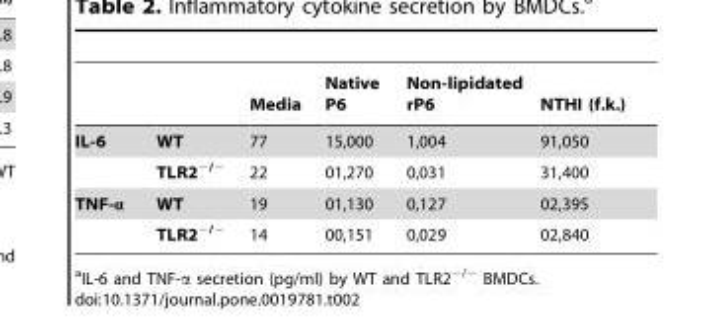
<table><thead><tr><td></td><td></td><td>Media</td><td>Native P6</td><td>Non-lipidated rP6</td><td>NTHI (f.k.)</td></tr></thead><tbody><tr><td rowspan="2">IL-6</td><td>WT</td><td>77</td><td>15,000</td><td>1,004</td><td>91,050</td></tr><tr><td>TLR2<sup>−/−</sup></td><td>22</td><td>01,270</td><td>0,031</td><td>31,400</td></tr><tr><td rowspan="2">TNF-α</td><td>WT</td><td>19</td><td>01,130</td><td>0,127</td><td>02,395</td></tr><tr><td>TLR2<sup>−/−</sup></td><td>14</td><td>00,151</td><td>0,029</td><td>02,840</td></tr></tbody></table>